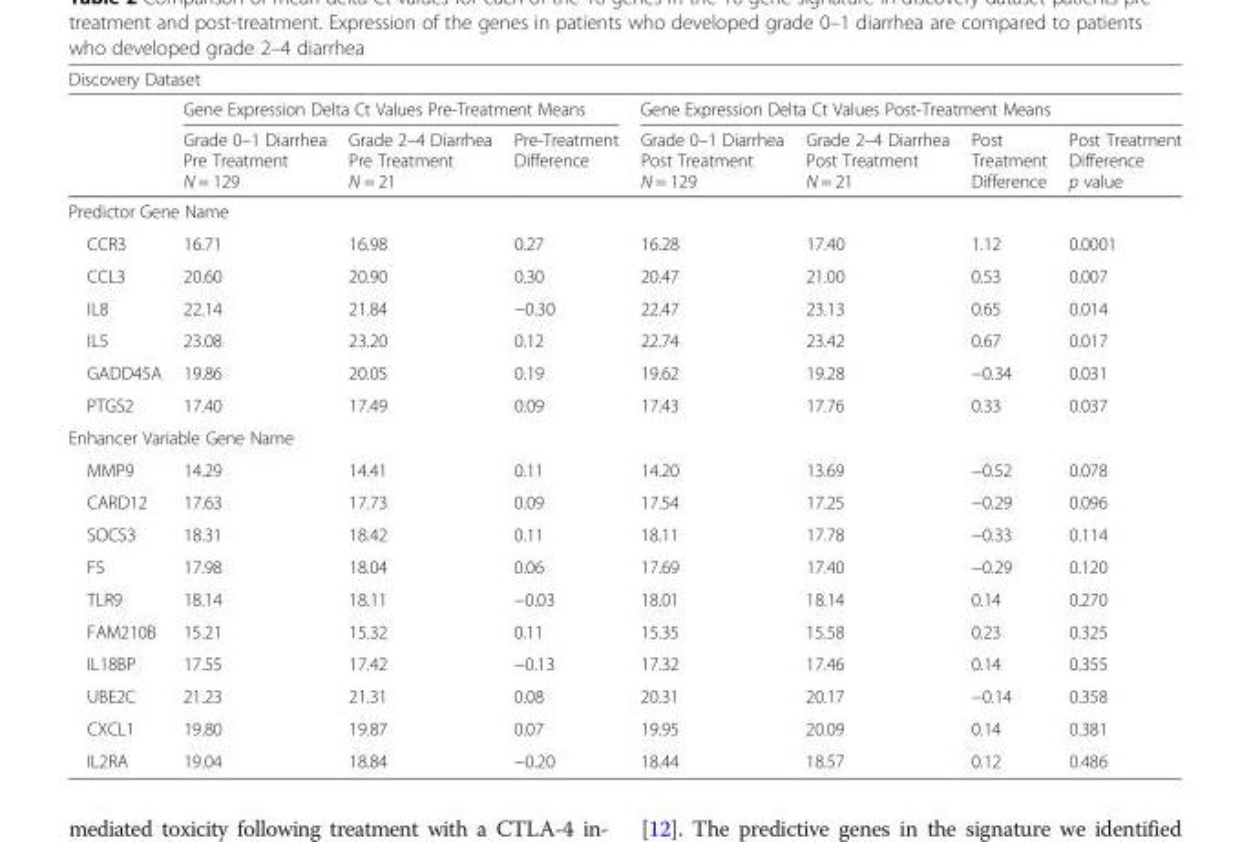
<table><thead><tr><td colspan="8">Discovery Dataset</td></tr><tr><td rowspan="2"></td><td colspan="3">Gene Expression Delta Ct Values Pre-Treatment Means</td><td colspan="4">Gene Expression Delta Ct Values Post-Treatment Means</td></tr><tr><td>Grade 0–1 Diarrhea Pre Treatment N = 129</td><td>Grade 2–4 Diarrhea Pre Treatment N = 21</td><td>Pre-Treatment Difference</td><td>Grade 0–1 Diarrhea Post Treatment N = 129</td><td>Grade 2–4 Diarrhea Post Treatment N = 21</td><td>Post Treatment Difference</td><td>Post Treatment Difference p value</td></tr></thead><tbody><tr><td colspan="8">Predictor Gene Name</td></tr><tr><td>CCR3</td><td>16.71</td><td>16.98</td><td>0.27</td><td>16.28</td><td>17.40</td><td>1.12</td><td>0.0001</td></tr><tr><td>CCL3</td><td>20.60</td><td>20.90</td><td>0.30</td><td>20.47</td><td>21.00</td><td>0.53</td><td>0.007</td></tr><tr><td>IL8</td><td>22.14</td><td>21.84</td><td>−0.30</td><td>22.47</td><td>23.13</td><td>0.65</td><td>0.014</td></tr><tr><td>IL5</td><td>23.08</td><td>23.20</td><td>0.12</td><td>22.74</td><td>23.42</td><td>0.67</td><td>0.017</td></tr><tr><td>GADD45A</td><td>19.86</td><td>20.05</td><td>0.19</td><td>19.62</td><td>19.28</td><td>−0.34</td><td>0.031</td></tr><tr><td>PTGS2</td><td>17.40</td><td>17.49</td><td>0.09</td><td>17.43</td><td>17.76</td><td>0.33</td><td>0.037</td></tr><tr><td colspan="8">Enhancer Variable Gene Name</td></tr><tr><td>MMP9</td><td>14.29</td><td>14.41</td><td>0.11</td><td>14.20</td><td>13.69</td><td>−0.52</td><td>0.078</td></tr><tr><td>CARD12</td><td>17.63</td><td>17.73</td><td>0.09</td><td>17.54</td><td>17.25</td><td>−0.29</td><td>0.096</td></tr><tr><td>SOCS3</td><td>18.31</td><td>18.42</td><td>0.11</td><td>18.11</td><td>17.78</td><td>−0.33</td><td>0.114</td></tr><tr><td>F5</td><td>17.98</td><td>18.04</td><td>0.06</td><td>17.69</td><td>17.40</td><td>−0.29</td><td>0.120</td></tr><tr><td>TLR9</td><td>18.14</td><td>18.11</td><td>−0.03</td><td>18.01</td><td>18.14</td><td>0.14</td><td>0.270</td></tr><tr><td>FAM210B</td><td>15.21</td><td>15.32</td><td>0.11</td><td>15.35</td><td>15.58</td><td>0.23</td><td>0.325</td></tr><tr><td>IL18BP</td><td>17.55</td><td>17.42</td><td>−0.13</td><td>17.32</td><td>17.46</td><td>0.14</td><td>0.355</td></tr><tr><td>UBE2C</td><td>21.23</td><td>21.31</td><td>0.08</td><td>20.31</td><td>20.17</td><td>−0.14</td><td>0.358</td></tr><tr><td>CXCL1</td><td>19.80</td><td>19.87</td><td>0.07</td><td>19.95</td><td>20.09</td><td>0.14</td><td>0.381</td></tr><tr><td>IL2RA</td><td>19.04</td><td>18.84</td><td>−0.20</td><td>18.44</td><td>18.57</td><td>0.12</td><td>0.486</td></tr></tbody></table>